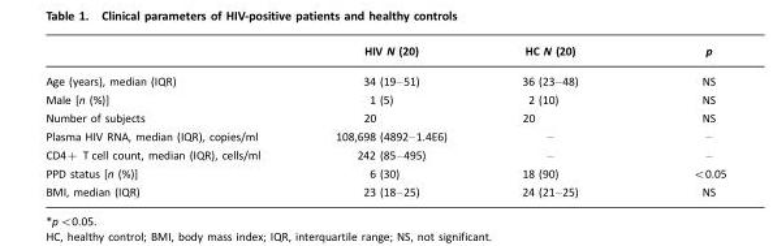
<table><thead><tr><td></td><td>HIV N (20)</td><td>HC N (20)</td><td>p</td></tr></thead><tbody><tr><td>Age (years), median (IQR)</td><td>34 (19–51)</td><td>36 (23–48)</td><td>NS</td></tr><tr><td>Male [n (%)]</td><td>1 (5)</td><td>2 (10)</td><td>NS</td></tr><tr><td>Number of subjects</td><td>20</td><td>20</td><td>NS</td></tr><tr><td>Plasma HIV RNA, median (IQR), copies/ml</td><td>108,698 (4892–1.4E6)</td><td>–</td><td>–</td></tr><tr><td>CD4+ T cell count, median (IQR), cells/ml</td><td>242 (85–495)</td><td>–</td><td>–</td></tr><tr><td>PPD status [n (%)]</td><td>6 (30)</td><td>18 (90)</td><td>&lt;0.05</td></tr><tr><td>BMI, median (IQR)</td><td>23 (18–25)</td><td>24 (21–25)</td><td>NS</td></tr></tbody></table>